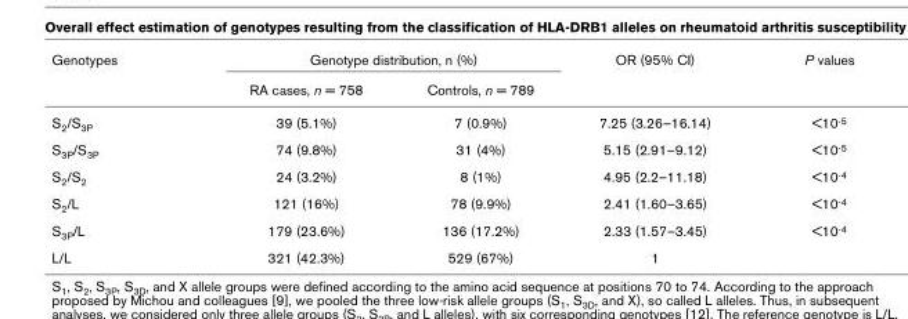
<table><thead><tr><td rowspan="2">Genotypes</td><td colspan="2">Genotype distribution, n (%)</td><td rowspan="2">OR (95% CI)</td><td rowspan="2">P values</td></tr><tr><td>RA cases, n = 758</td><td>Controls, n = 789</td></tr></thead><tbody><tr><td>S<sub>2</sub>/S<sub>3P</sub></td><td>39 (5.1%)</td><td>7 (0.9%)</td><td>7.25 (3.26–16.14)</td><td>&lt;10<sup>-5</sup></td></tr><tr><td>S<sub>3P</sub>/S<sub>3P</sub></td><td>74 (9.8%)</td><td>31 (4%)</td><td>5.15 (2.91–9.12)</td><td>&lt;10<sup>-5</sup></td></tr><tr><td>S<sub>2</sub>/S<sub>2</sub></td><td>24 (3.2%)</td><td>8 (1%)</td><td>4.95 (2.2–11.18)</td><td>&lt;10<sup>-4</sup></td></tr><tr><td>S<sub>2</sub>/L</td><td>121 (16%)</td><td>78 (9.9%)</td><td>2.41 (1.60–3.65)</td><td>&lt;10<sup>-4</sup></td></tr><tr><td>S<sub>3P</sub>/L</td><td>179 (23.6%)</td><td>136 (17.2%)</td><td>2.33 (1.57–3.45)</td><td>&lt;10<sup>-4</sup></td></tr><tr><td>L/L</td><td>321 (42.3%)</td><td>529 (67%)</td><td>1</td><td></td></tr></tbody></table>